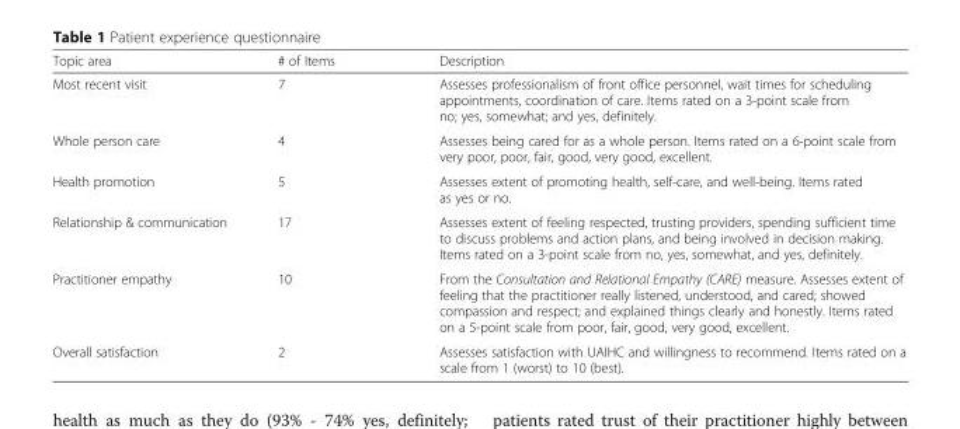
<table><thead><tr><td>Topic area</td><td># of Items</td><td>Description</td></tr></thead><tbody><tr><td>Most recent visit</td><td>7</td><td>Assesses professionalism of front office personnel, wait times for scheduling appointments, coordination of care. Items rated on a 3-point scale from no; yes, somewhat; and yes, definitely.</td></tr><tr><td>Whole person care</td><td>4</td><td>Assesses being cared for as a whole person. Items rated on a 6-point scale from very poor, poor, fair, good, very good, excellent.</td></tr><tr><td>Health promotion</td><td>5</td><td>Assesses extent of promoting health, self-care, and well-being. Items rated as yes or no.</td></tr><tr><td>Relationship &amp; communication</td><td>17</td><td>Assesses extent of feeling respected, trusting providers, spending sufficient time to discuss problems and action plans, and being involved in decision making. Items rated on a 3-point scale from no, yes, somewhat, and yes, definitely.</td></tr><tr><td>Practitioner empathy</td><td>10</td><td>From the Consultation and Relational Empathy (CARE) measure. Assesses extent of feeling that the practitioner really listened, understood, and cared; showed compassion and respect; and explained things clearly and honestly. Items rated on a 5-point scale from poor, fair, good, very good, excellent.</td></tr><tr><td>Overall satisfaction</td><td>2</td><td>Assesses satisfaction with UAIHC and willingness to recommend. Items rated on a scale from 1 (worst) to 10 (best).</td></tr></tbody></table>